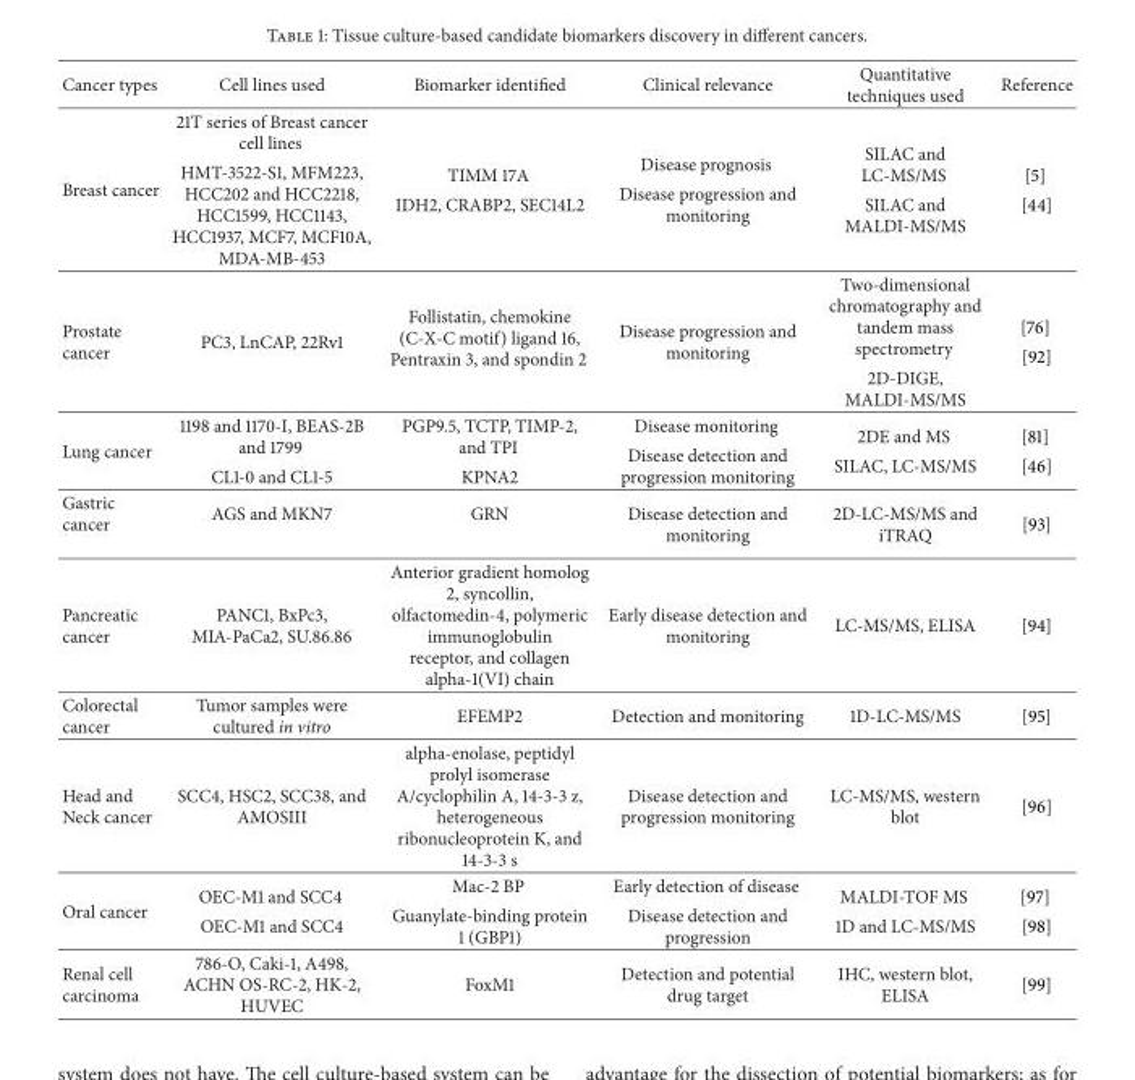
<table><thead><tr><td>Cancer types</td><td>Cell lines used</td><td>Biomarker identified</td><td>Clinical relevance</td><td>Quantitative techniques used</td><td>Reference</td></tr></thead><tbody><tr><td>Breast cancer</td><td>21T series of Breast cancer cell lines HMT-3522-S1, MFM223, HCC202 and HCC2218, HCC1599, HCC1143, HCC1937, MCF7, MCF10A, MDA-MB-453</td><td>TIMM 17A IDH2, CRABP2, SEC14L2</td><td>Disease prognosis Disease progression and monitoring</td><td>SILAC and LC-MS/MS SILAC and MALDI-MS/MS</td><td>[5] [44]</td></tr><tr><td>Prostate cancer</td><td>PC3, LnCAP, 22Rv1</td><td>Follistatin, chemokine (C-X-C motif) ligand 16, Pentraxin 3, and spondin 2</td><td>Disease progression and monitoring</td><td>Two-dimensional chromatography and tandem mass spectrometry 2D-DIGE, MALDI-MS/MS</td><td>[76] [92]</td></tr><tr><td>Lung cancer</td><td>1198 and 1170-I, BEAS-2B and 1799 CL1-0 and CL1-5</td><td>PGP9.5, TCTP, TIMP-2, and TPI KPNA2</td><td>Disease monitoring Disease detection and progression monitoring</td><td>2DE and MS SILAC, LC-MS/MS</td><td>[81] [46]</td></tr><tr><td>Gastric cancer</td><td>AGS and MKN7</td><td>GRN</td><td>Disease detection and monitoring</td><td>2D-LC-MS/MS and iTRAQ</td><td>[93]</td></tr><tr><td>Pancreatic cancer</td><td>PANC1, BxPc3, MIA-PaCa2, SU.86.86</td><td>Anterior gradient homolog 2, syncollin, olfactomedin-4, polymeric immunoglobulin receptor, and collagen alpha-1(VI) chain</td><td>Early disease detection and monitoring</td><td>LC-MS/MS, ELISA</td><td>[94]</td></tr><tr><td>Colorectal cancer</td><td>Tumor samples were cultured in vitro</td><td>EFEMP2</td><td>Detection and monitoring</td><td>1D-LC-MS/MS</td><td>[95]</td></tr><tr><td>Head and Neck cancer</td><td>SCC4, HSC2, SCC38, and AMOSIII</td><td>alpha-enolase, peptidyl prolyl isomerase A/cyclophilin A, 14-3-3 z, heterogeneous ribonucleoprotein K, and 14-3-3 s</td><td>Disease detection and progression monitoring</td><td>LC-MS/MS, western blot</td><td>[96]</td></tr><tr><td>Oral cancer</td><td>OEC-M1 and SCC4 OEC-M1 and SCC4</td><td>Mac-2 BP Guanylate-binding protein 1 (GBP1)</td><td>Early detection of disease Disease detection and progression</td><td>MALDI-TOF MS 1D and LC-MS/MS</td><td>[97] [98]</td></tr><tr><td>Renal cell carcinoma</td><td>786-O, Caki-1, A498, ACHN OS-RC-2, HK-2, HUVEC</td><td>FoxM1</td><td>Detection and potential drug target</td><td>IHC, western blot, ELISA</td><td>[99]</td></tr></tbody></table>